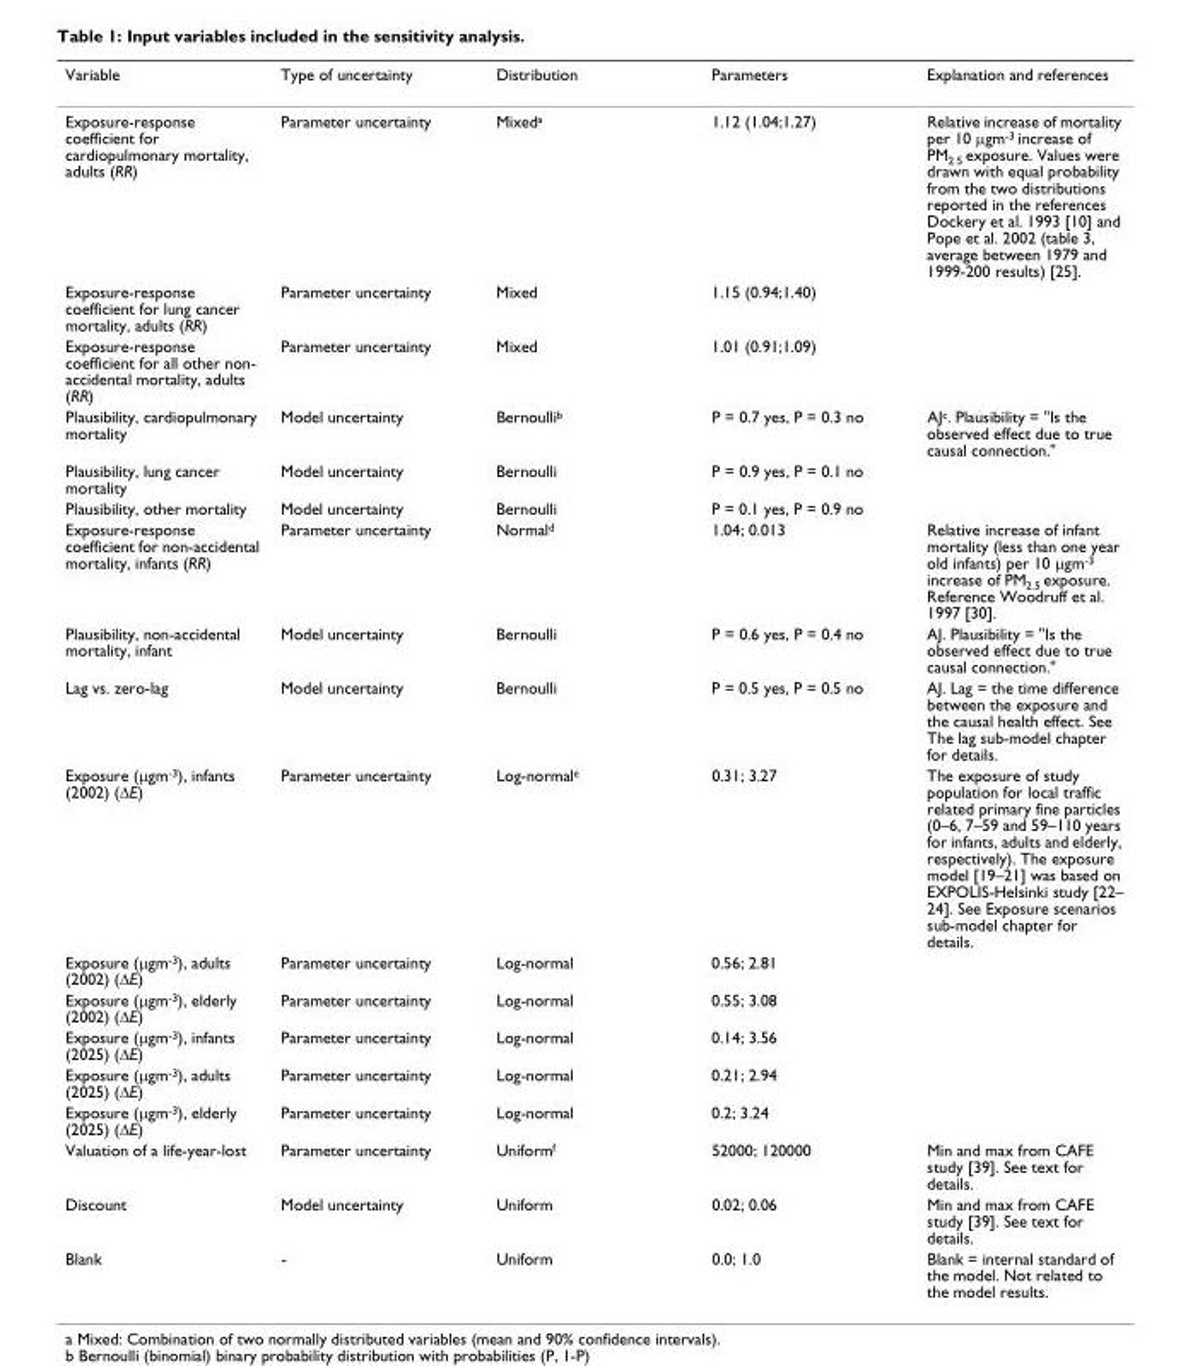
<table><thead><tr><td>Variable</td><td>Type of uncertainty</td><td>Distribution</td><td>Parameters</td><td>Explanation and references</td></tr></thead><tbody><tr><td>Exposure-response coefficient for cardiopulmonary mortality, adults (RR)</td><td>Parameter uncertainty</td><td>Mixed<sup>a</sup></td><td>1.12 (1.04;1.27)</td><td>Relative increase of mortality per 10 µgm<sup>-3</sup> increase of PM<sub>2.5</sub> exposure. Values were drawn with equal probability from the two distributions reported in the references Dockery et al. 1993 [10] and Pope et al. 2002 (table 3, average between 1979 and 1999-200 results) [25].</td></tr><tr><td>Exposure-response coefficient for lung cancer mortality, adults (RR)</td><td>Parameter uncertainty</td><td>Mixed</td><td>1.15 (0.94;1.40)</td><td></td></tr><tr><td>Exposure-response coefficient for all other non- accidental mortality, adults (RR)</td><td>Parameter uncertainty</td><td>Mixed</td><td>1.01 (0.91;1.09)</td><td></td></tr><tr><td>Plausibility, cardiopulmonary mortality</td><td>Model uncertainty</td><td>Bernoulli<sup>b</sup></td><td>P = 0.7 yes, P = 0.3 no</td><td>AJ<sup>c</sup>. Plausibility = &quot;Is the observed effect due to true causal connection.&quot;</td></tr><tr><td>Plausibility, lung cancer mortality</td><td>Model uncertainty</td><td>Bernoulli</td><td>P = 0.9 yes, P = 0.1 no</td><td></td></tr><tr><td>Plausibility, other mortality</td><td>Model uncertainty</td><td>Bernoulli</td><td>P = 0.1 yes, P = 0.9 no</td><td></td></tr><tr><td>Exposure-response coefficient for non-accidental mortality, infants (RR)</td><td>Parameter uncertainty</td><td>Normal<sup>d</sup></td><td>1.04; 0.013</td><td>Relative increase of infant mortality (less than one year old infants) per 10 µgm<sup>-3</sup> increase of PM<sub>2.5</sub> exposure. Reference Woodruff et al. 1997 [30].</td></tr><tr><td>Plausibility, non-accidental mortality, infant</td><td>Model uncertainty</td><td>Bernoulli</td><td>P = 0.6 yes, P = 0.4 no</td><td>AJ. Plausibility = &quot;Is the observed effect due to true causal connection.&quot;</td></tr><tr><td>Lag vs. zero-lag</td><td>Model uncertainty</td><td>Bernoulli</td><td>P = 0.5 yes, P = 0.5 no</td><td>AJ. Lag = the time difference between the exposure and the causal health effect. See The lag sub-model chapter for details.</td></tr><tr><td>Exposure (µgm-3), infants (2002) (∆E)</td><td>Parameter uncertainty</td><td>Log-normal<sup>e</sup></td><td>0.31; 3.27</td><td>The exposure of study population for local traffic related primary fine particles (0–6, 7–59 and 59–110 years for infants, adults and elderly, respectively). The exposure model [19–21] was based on EXPOLIS-Helsinki study [22– 24]. See Exposure scenarios sub-model chapter for details.</td></tr><tr><td>Exposure (µgm-3), adults (2002) (∆E)</td><td>Parameter uncertainty</td><td>Log-normal</td><td>0.56; 2.81</td><td></td></tr><tr><td>Exposure (µgm-3), elderly (2002) (∆E)</td><td>Parameter uncertainty</td><td>Log-normal</td><td>0.55; 3.08</td><td></td></tr><tr><td>Exposure (µgm-3), infants (2025) (∆E)</td><td>Parameter uncertainty</td><td>Log-normal</td><td>0.14; 3.56</td><td></td></tr><tr><td>Exposure (µgm-3), adults (2025) (∆E)</td><td>Parameter uncertainty</td><td>Log-normal</td><td>0.21; 2.94</td><td></td></tr><tr><td>Exposure (µgm-3), elderly (2025) (∆E)</td><td>Parameter uncertainty</td><td>Log-normal</td><td>0.2; 3.24</td><td></td></tr><tr><td>Valuation of a life-year-lost</td><td>Parameter uncertainty</td><td>Uniform<sup>f</sup></td><td>52000; 120000</td><td>Min and max from CAFE study [39]. See text for details.</td></tr><tr><td>Discount</td><td>Model uncertainty</td><td>Uniform</td><td>0.02; 0.06</td><td>Min and max from CAFE study [39]. See text for details.</td></tr><tr><td>Blank</td><td>-</td><td>Uniform</td><td>0.0; 1.0</td><td>Blank = internal standard of the model. Not related to the model results.</td></tr></tbody></table>